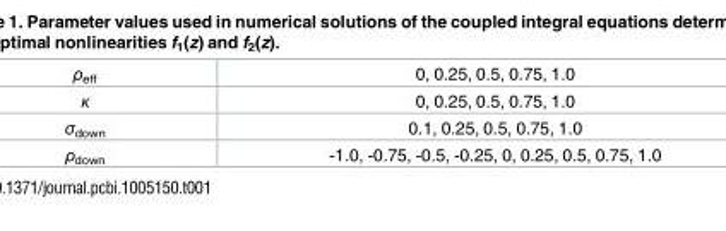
<table><tbody><tr><td>ρ<sub>eff</sub></td><td>0, 0.25, 0.5, 0.75, 1.0</td></tr><tr><td>κ</td><td>0, 0.25, 0.5, 0.75, 1.0</td></tr><tr><td>σ<sub>down</sub></td><td>0.1, 0.25, 0.5, 0.75, 1.0</td></tr><tr><td>ρ<sub>down</sub></td><td>-1.0, -0.75, -0.5, -0.25, 0, 0.25, 0.5, 0.75, 1.0</td></tr></tbody></table>